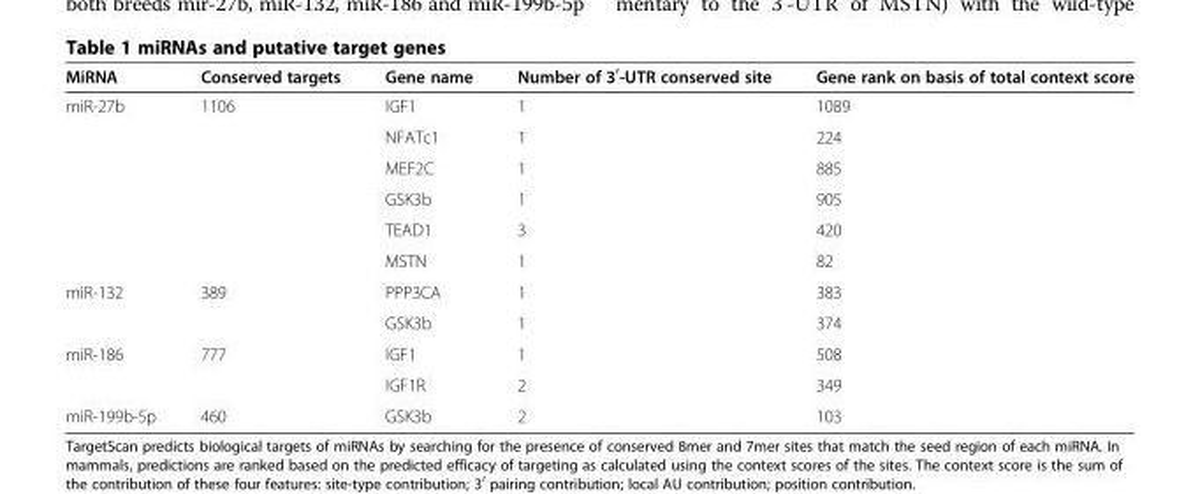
<table><thead><tr><td>MiRNA</td><td>Conserved targets</td><td>Gene name</td><td>Number of 3<sup>′</sup>-UTR conserved site</td><td>Gene rank on basis of total context score</td></tr></thead><tbody><tr><td rowspan="6">miR-27b</td><td>1106</td><td>IGF1</td><td>1</td><td>1089</td></tr><tr><td></td><td>NFATc1</td><td>1</td><td>224</td></tr><tr><td></td><td>MEF2C</td><td>1</td><td>885</td></tr><tr><td></td><td>GSK3b</td><td>1</td><td>905</td></tr><tr><td></td><td>TEAD1</td><td>3</td><td>420</td></tr><tr><td></td><td>MSTN</td><td>1</td><td>82</td></tr><tr><td rowspan="2">miR-132</td><td>389</td><td>PPP3CA</td><td>1</td><td>383</td></tr><tr><td></td><td>GSK3b</td><td>1</td><td>374</td></tr><tr><td rowspan="2">miR-186</td><td>777</td><td>IGF1</td><td>1</td><td>508</td></tr><tr><td></td><td>IGF1R</td><td>2</td><td>349</td></tr><tr><td>miR-199b-5p</td><td>460</td><td>GSK3b</td><td>2</td><td>103</td></tr></tbody></table>